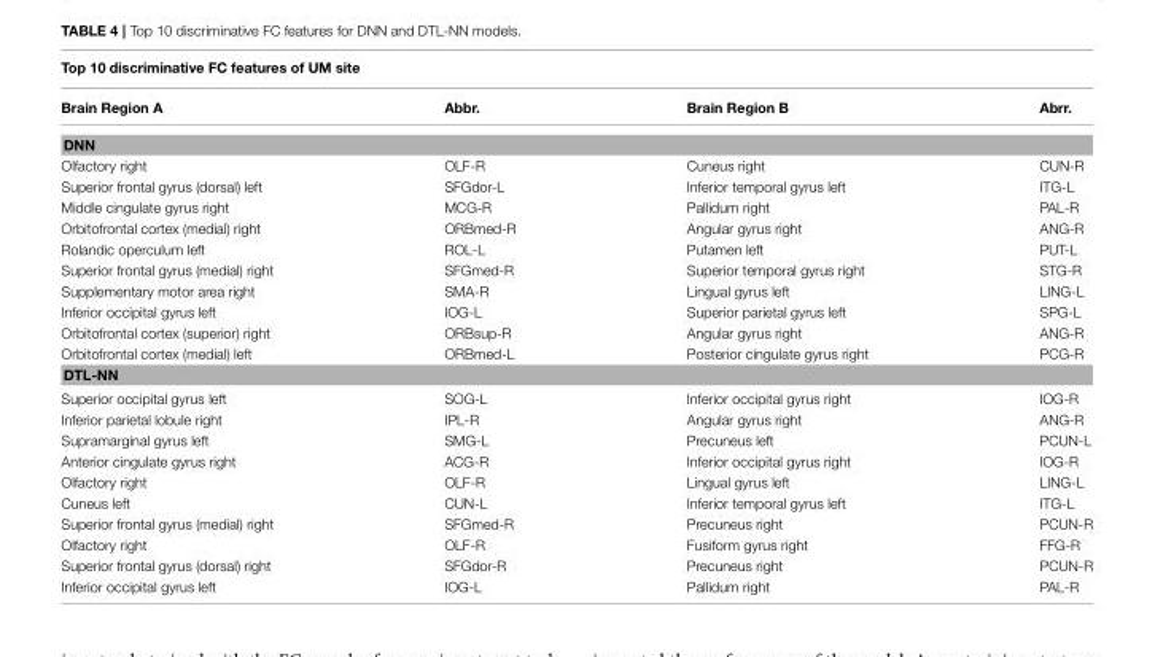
<table><thead><tr><td colspan="4">Top 10 discriminative FC features of UM site</td></tr><tr><td>Brain Region A</td><td>Abbr.</td><td>Brain Region B</td><td>Abrr.</td></tr></thead><tbody><tr><td colspan="4">DNN</td></tr><tr><td>Olfactory right</td><td>OLF-R</td><td>Cuneus right</td><td>CUN-R</td></tr><tr><td>Superior frontal gyrus (dorsal) left</td><td>SFGdor-L</td><td>Inferior temporal gyrus left</td><td>ITG-L</td></tr><tr><td>Middle cingulate gyrus right</td><td>MCG-R</td><td>Pallidum right</td><td>PAL-R</td></tr><tr><td>Orbitofrontal cortex (medial) right</td><td>ORBmed-R</td><td>Angular gyrus right</td><td>ANG-R</td></tr><tr><td>Rolandic operculum left</td><td>ROL-L</td><td>Putamen left</td><td>PUT-L</td></tr><tr><td>Superior frontal gyrus (medial) right</td><td>SFGmed-R</td><td>Superior temporal gyrus right</td><td>STG-R</td></tr><tr><td>Supplementary motor area right</td><td>SMA-R</td><td>Lingual gyrus left</td><td>LING-L</td></tr><tr><td>Inferior occipital gyrus left</td><td>IOG-L</td><td>Superior parietal gyrus left</td><td>SPG-L</td></tr><tr><td>Orbitofrontal cortex (superior) right</td><td>ORBsup-R</td><td>Angular gyrus right</td><td>ANG-R</td></tr><tr><td>Orbitofrontal cortex (medial) left</td><td>ORBmed-L</td><td>Posterior cingulate gyrus right</td><td>PCG-R</td></tr><tr><td colspan="4">DTL-NN</td></tr><tr><td>Superior occipital gyrus left</td><td>SOG-L</td><td>Inferior occipital gyrus right</td><td>IOG-R</td></tr><tr><td>Inferior parietal lobule right</td><td>IPL-R</td><td>Angular gyrus right</td><td>ANG-R</td></tr><tr><td>Supramarginal gyrus left</td><td>SMG-L</td><td>Precuneus left</td><td>PCUN-L</td></tr><tr><td>Anterior cingulate gyrus right</td><td>ACG-R</td><td>Inferior occipital gyrus right</td><td>IOG-R</td></tr><tr><td>Olfactory right</td><td>OLF-R</td><td>Lingual gyrus left</td><td>LING-L</td></tr><tr><td>Cuneus left</td><td>CUN-L</td><td>Inferior temporal gyrus left</td><td>ITG-L</td></tr><tr><td>Superior frontal gyrus (medial) right</td><td>SFGmed-R</td><td>Precuneus right</td><td>PCUN-R</td></tr><tr><td>Olfactory right</td><td>OLF-R</td><td>Fusiform gyrus right</td><td>FFG-R</td></tr><tr><td>Superior frontal gyrus (dorsal) right</td><td>SFGdor-R</td><td>Precuneus right</td><td>PCUN-R</td></tr><tr><td>Inferior occipital gyrus left</td><td>IOG-L</td><td>Pallidum right</td><td>PAL-R</td></tr></tbody></table>